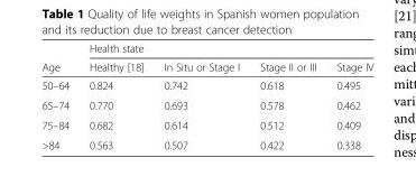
<table><thead><tr><td rowspan="2">Age</td><td colspan="4">Health state</td></tr><tr><td>Healthy [18]</td><td>In Situ or Stage I</td><td>Stage II or III</td><td>Stage IV</td></tr></thead><tbody><tr><td>50–64</td><td>0.824</td><td>0.742</td><td>0.618</td><td>0.495</td></tr><tr><td>65–74</td><td>0.770</td><td>0.693</td><td>0.578</td><td>0.462</td></tr><tr><td>75–84</td><td>0.682</td><td>0.614</td><td>0.512</td><td>0.409</td></tr><tr><td>&gt;84</td><td>0.563</td><td>0.507</td><td>0.422</td><td>0.338</td></tr></tbody></table>